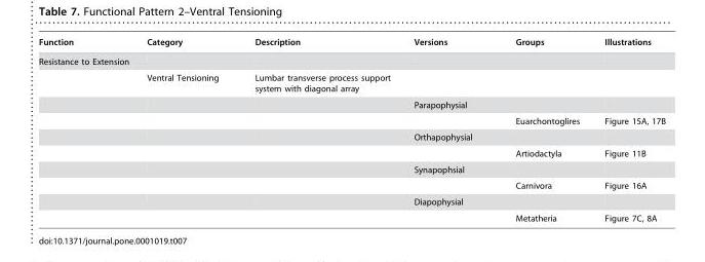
<table><thead><tr><td>Function</td><td>Category</td><td>Description</td><td>Versions</td><td>Groups</td><td>Illustrations</td></tr></thead><tbody><tr><td colspan="6">Resistance to Extension</td></tr><tr><td></td><td>Ventral Tensioning</td><td>Lumbar transverse process support system with diagonal array</td><td></td><td></td><td></td></tr><tr><td></td><td></td><td></td><td>Parapophysial</td><td></td><td></td></tr><tr><td></td><td></td><td></td><td></td><td>Euarchontoglires</td><td>Figure 15A, 17B</td></tr><tr><td></td><td></td><td></td><td>Orthapophysial</td><td></td><td></td></tr><tr><td></td><td></td><td></td><td></td><td>Artiodactyla</td><td>Figure 11B</td></tr><tr><td></td><td></td><td></td><td>Synapophsial</td><td></td><td></td></tr><tr><td></td><td></td><td></td><td></td><td>Carnivora</td><td>Figure 16A</td></tr><tr><td></td><td></td><td></td><td>Diapophysial</td><td></td><td></td></tr><tr><td></td><td></td><td></td><td></td><td>Metatheria</td><td>Figure 7C, 8A</td></tr></tbody></table>